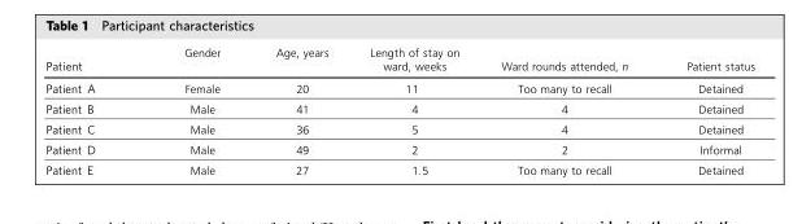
<table><thead><tr><td>Patient</td><td>Gender</td><td>Age, years</td><td>Length of stay on ward, weeks</td><td>Ward rounds attended, n</td><td>Patient status</td></tr></thead><tbody><tr><td>Patient A</td><td>Female</td><td>20</td><td>11</td><td>Too many to recall</td><td>Detained</td></tr><tr><td>Patient B</td><td>Male</td><td>41</td><td>4</td><td>4</td><td>Detained</td></tr><tr><td>Patient C</td><td>Male</td><td>36</td><td>5</td><td>4</td><td>Detained</td></tr><tr><td>Patient D</td><td>Male</td><td>49</td><td>2</td><td>2</td><td>Informal</td></tr><tr><td>Patient E</td><td>Male</td><td>27</td><td>1.5</td><td>Too many to recall</td><td>Detained</td></tr></tbody></table>